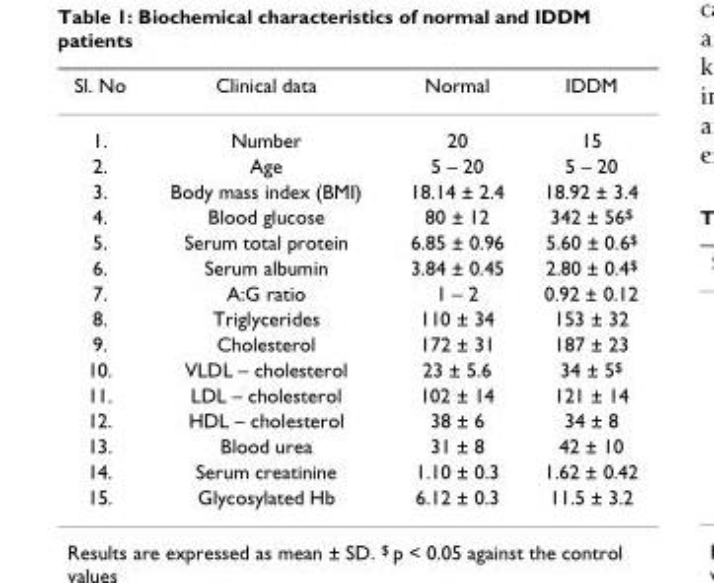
<table><thead><tr><td>Sl. No</td><td>Clinical data</td><td>Normal</td><td>IDDM</td></tr></thead><tbody><tr><td>1.</td><td>Number</td><td>20</td><td>15</td></tr><tr><td>2.</td><td>Age</td><td>5 – 20</td><td>5 – 20</td></tr><tr><td>3.</td><td>Body mass index (BMI)</td><td>18.14 ± 2.4</td><td>18.92 ± 3.4</td></tr><tr><td>4.</td><td>Blood glucose</td><td>80 ± 12</td><td>342 ± 56<sup>$</sup></td></tr><tr><td>5.</td><td>Serum total protein</td><td>6.85 ± 0.96</td><td>5.60 ± 0.6<sup>$</sup></td></tr><tr><td>6.</td><td>Serum albumin</td><td>3.84 ± 0.45</td><td>2.80 ± 0.4<sup>$</sup></td></tr><tr><td>7.</td><td>A:G ratio</td><td>1 – 2</td><td>0.92 ± 0.12</td></tr><tr><td>8.</td><td>Triglycerides</td><td>110 ± 34</td><td>153 ± 32</td></tr><tr><td>9.</td><td>Cholesterol</td><td>172 ± 31</td><td>187 ± 23</td></tr><tr><td>10.</td><td>VLDL – cholesterol</td><td>23 ± 5.6</td><td>34 ± 5<sup>$</sup></td></tr><tr><td>11.</td><td>LDL – cholesterol</td><td>102 ± 14</td><td>121 ± 14</td></tr><tr><td>12.</td><td>HDL – cholesterol</td><td>38 ± 6</td><td>34 ± 8</td></tr><tr><td>13.</td><td>Blood urea</td><td>31 ± 8</td><td>42 ± 10</td></tr><tr><td>14.</td><td>Serum creatinine</td><td>1.10 ± 0.3</td><td>1.62 ± 0.42</td></tr><tr><td>15.</td><td>Glycosylated Hb</td><td>6.12 ± 0.3</td><td>11.5 ± 3.2</td></tr></tbody></table>